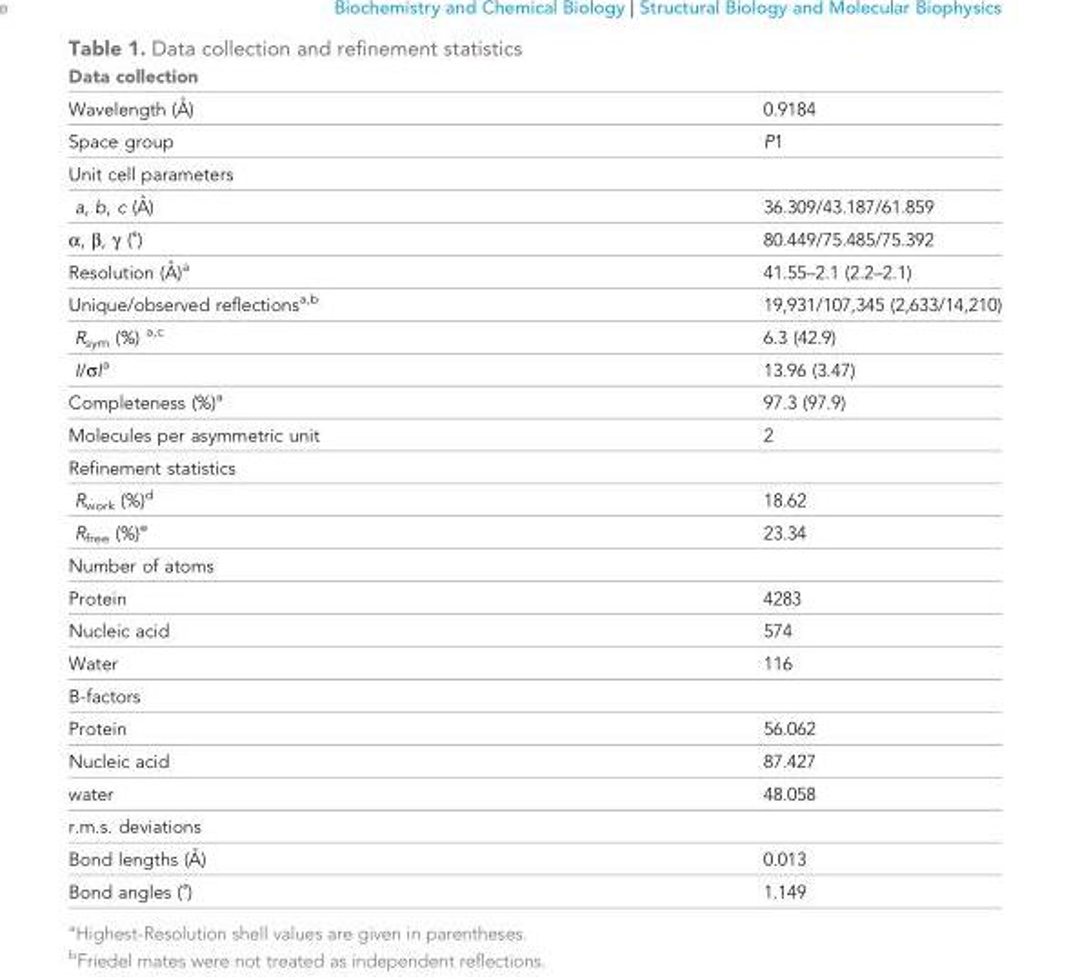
<table><thead><tr><td>Data collection</td><td></td></tr></thead><tbody><tr><td>Wavelength (A˚ )</td><td>0.9184</td></tr><tr><td>Space group</td><td>P1</td></tr><tr><td colspan="2">Unit cell parameters</td></tr><tr><td>a, b, c (A˚ )</td><td>36.309/43.187/61.859</td></tr><tr><td>α, β, γ (˚)</td><td>80.449/75.485/75.392</td></tr><tr><td>Resolution (A˚ )a</td><td>41.55–2.1 (2.2–2.1)</td></tr><tr><td>Unique/observed reflections<sup>a,b</sup></td><td>19,931/107,345 (2,633/14,210)</td></tr><tr><td>R<sub>sym</sub> (%) <sup>a,c</sup></td><td>6.3 (42.9)</td></tr><tr><td>I/σI<sup>a</sup></td><td>13.96 (3.47)</td></tr><tr><td>Completeness (%)<sup>a</sup></td><td>97.3 (97.9)</td></tr><tr><td>Molecules per asymmetric unit</td><td>2</td></tr><tr><td colspan="2">Refinement statistics</td></tr><tr><td>R<sub>work</sub> (%)<sup>d</sup></td><td>18.62</td></tr><tr><td>R<sub>free</sub> (%)<sup>e</sup></td><td>23.34</td></tr><tr><td colspan="2">Number of atoms</td></tr><tr><td>Protein</td><td>4283</td></tr><tr><td>Nucleic acid</td><td>574</td></tr><tr><td>Water</td><td>116</td></tr><tr><td colspan="2">B-factors</td></tr><tr><td>Protein</td><td>56.062</td></tr><tr><td>Nucleic acid</td><td>87.427</td></tr><tr><td>water</td><td>48.058</td></tr><tr><td colspan="2">r.m.s. deviations</td></tr><tr><td>Bond lengths (A˚ )</td><td>0.013</td></tr><tr><td>Bond angles (˚)</td><td>1.149</td></tr></tbody></table>